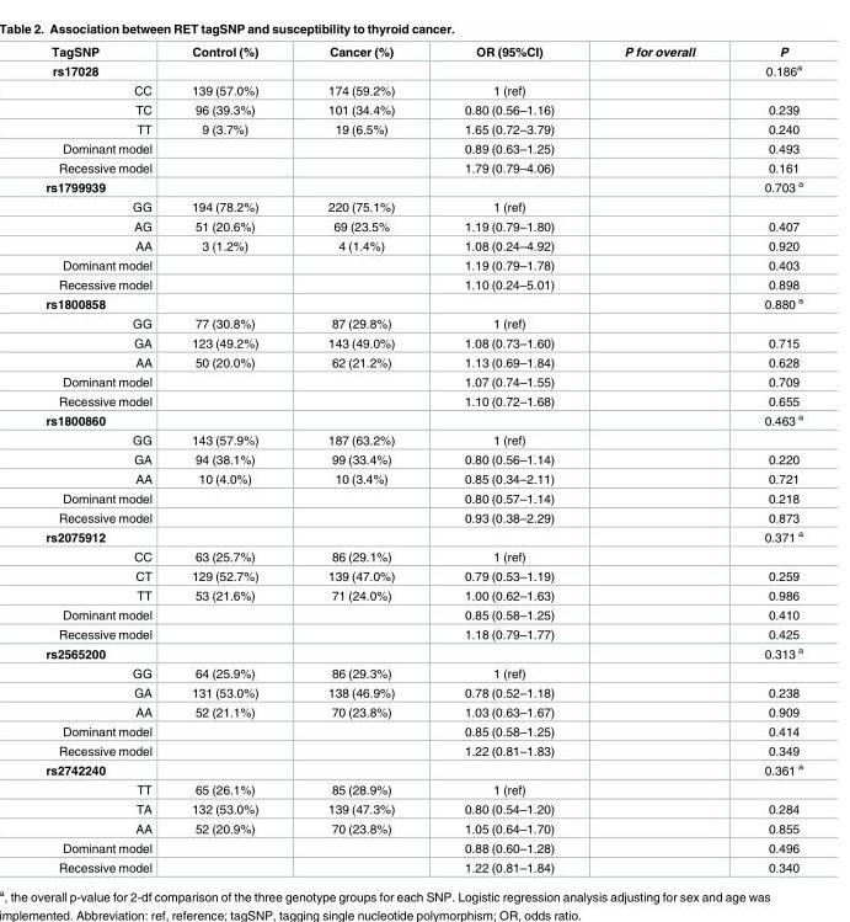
<table><thead><tr><td>TagSNP</td><td>Control (%)</td><td>Cancer (%)</td><td>OR (95%CI)</td><td>P for overall</td><td>P</td></tr></thead><tbody><tr><td>rs17028</td><td></td><td></td><td></td><td></td><td>0.186<sup>a</sup></td></tr><tr><td>CC</td><td>139 (57.0%)</td><td>174 (59.2%)</td><td>1 (ref)</td><td></td><td></td></tr><tr><td>TC</td><td>96 (39.3%)</td><td>101 (34.4%)</td><td>0.80 (0.56–1.16)</td><td></td><td>0.239</td></tr><tr><td>TT</td><td>9 (3.7%)</td><td>19 (6.5%)</td><td>1.65 (0.72–3.79)</td><td></td><td>0.240</td></tr><tr><td>Dominant model</td><td></td><td></td><td>0.89 (0.63–1.25)</td><td></td><td>0.493</td></tr><tr><td>Recessive model</td><td></td><td></td><td>1.79 (0.79–4.06)</td><td></td><td>0.161</td></tr><tr><td>rs1799939</td><td></td><td></td><td></td><td></td><td>0.703 <sup>a</sup></td></tr><tr><td>GG</td><td>194 (78.2%)</td><td>220 (75.1%)</td><td>1 (ref)</td><td></td><td></td></tr><tr><td>AG</td><td>51 (20.6%)</td><td>69 (23.5%</td><td>1.19 (0.79–1.80)</td><td></td><td>0.407</td></tr><tr><td>AA</td><td>3 (1.2%)</td><td>4 (1.4%)</td><td>1.08 (0.24–4.92)</td><td></td><td>0.920</td></tr><tr><td>Dominant model</td><td></td><td></td><td>1.19 (0.79–1.78)</td><td></td><td>0.403</td></tr><tr><td>Recessive model</td><td></td><td></td><td>1.10 (0.24–5.01)</td><td></td><td>0.898</td></tr><tr><td>rs1800858</td><td></td><td></td><td></td><td></td><td>0.880 <sup>a</sup></td></tr><tr><td>GG</td><td>77 (30.8%)</td><td>87 (29.8%)</td><td>1 (ref)</td><td></td><td></td></tr><tr><td>GA</td><td>123 (49.2%)</td><td>143 (49.0%)</td><td>1.08 (0.73–1.60)</td><td></td><td>0.715</td></tr><tr><td>AA</td><td>50 (20.0%)</td><td>62 (21.2%)</td><td>1.13 (0.69–1.84)</td><td></td><td>0.628</td></tr><tr><td>Dominant model</td><td></td><td></td><td>1.07 (0.74–1.55)</td><td></td><td>0.709</td></tr><tr><td>Recessive model</td><td></td><td></td><td>1.10 (0.72–1.68)</td><td></td><td>0.655</td></tr><tr><td>rs1800860</td><td></td><td></td><td></td><td></td><td>0.463 <sup>a</sup></td></tr><tr><td>GG</td><td>143 (57.9%)</td><td>187 (63.2%)</td><td>1 (ref)</td><td></td><td></td></tr><tr><td>GA</td><td>94 (38.1%)</td><td>99 (33.4%)</td><td>0.80 (0.56–1.14)</td><td></td><td>0.220</td></tr><tr><td>AA</td><td>10 (4.0%)</td><td>10 (3.4%)</td><td>0.85 (0.34–2.11)</td><td></td><td>0.721</td></tr><tr><td>Dominant model</td><td></td><td></td><td>0.80 (0.57–1.14)</td><td></td><td>0.218</td></tr><tr><td>Recessive model</td><td></td><td></td><td>0.93 (0.38–2.29)</td><td></td><td>0.873</td></tr><tr><td>rs2075912</td><td></td><td></td><td></td><td></td><td>0.371 <sup>a</sup></td></tr><tr><td>CC</td><td>63 (25.7%)</td><td>86 (29.1%)</td><td>1 (ref)</td><td></td><td></td></tr><tr><td>CT</td><td>129 (52.7%)</td><td>139 (47.0%)</td><td>0.79 (0.53–1.19)</td><td></td><td>0.259</td></tr><tr><td>TT</td><td>53 (21.6%)</td><td>71 (24.0%)</td><td>1.00 (0.62–1.63)</td><td></td><td>0.986</td></tr><tr><td>Dominant model</td><td></td><td></td><td>0.85 (0.58–1.25)</td><td></td><td>0.410</td></tr><tr><td>Recessive model</td><td></td><td></td><td>1.18 (0.79–1.77)</td><td></td><td>0.425</td></tr><tr><td>rs2565200</td><td></td><td></td><td></td><td></td><td>0.313 <sup>a</sup></td></tr><tr><td>GG</td><td>64 (25.9%)</td><td>86 (29.3%)</td><td>1 (ref)</td><td></td><td></td></tr><tr><td>GA</td><td>131 (53.0%)</td><td>138 (46.9%)</td><td>0.78 (0.52–1.18)</td><td></td><td>0.238</td></tr><tr><td>AA</td><td>52 (21.1%)</td><td>70 (23.8%)</td><td>1.03 (0.63–1.67)</td><td></td><td>0.909</td></tr><tr><td>Dominant model</td><td></td><td></td><td>0.85 (0.58–1.25)</td><td></td><td>0.414</td></tr><tr><td>Recessive model</td><td></td><td></td><td>1.22 (0.81–1.83)</td><td></td><td>0.349</td></tr><tr><td>rs2742240</td><td></td><td></td><td></td><td></td><td>0.361 <sup>a</sup></td></tr><tr><td>TT</td><td>65 (26.1%)</td><td>85 (28.9%)</td><td>1 (ref)</td><td></td><td></td></tr><tr><td>TA</td><td>132 (53.0%)</td><td>139 (47.3%)</td><td>0.80 (0.54–1.20)</td><td></td><td>0.284</td></tr><tr><td>AA</td><td>52 (20.9%)</td><td>70 (23.8%)</td><td>1.05 (0.64–1.70)</td><td></td><td>0.855</td></tr><tr><td>Dominant model</td><td></td><td></td><td>0.88 (0.60–1.28)</td><td></td><td>0.496</td></tr><tr><td>Recessive model</td><td></td><td></td><td>1.22 (0.81–1.84)</td><td></td><td>0.340</td></tr></tbody></table>